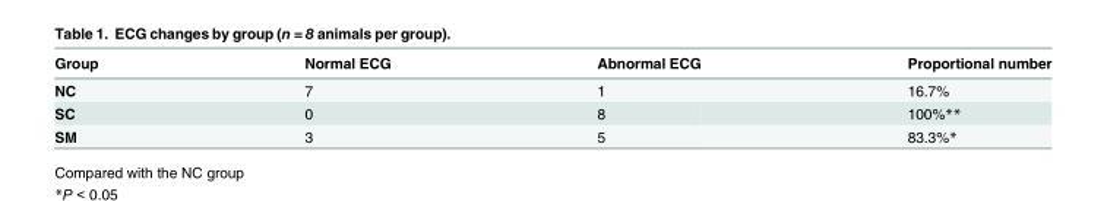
<table><thead><tr><td>Group</td><td>Normal ECG</td><td>Abnormal ECG</td><td>Proportional number</td></tr></thead><tbody><tr><td>NC</td><td>7</td><td>1</td><td>16.7%</td></tr><tr><td>SC</td><td>0</td><td>8</td><td>100%**</td></tr><tr><td>SM</td><td>3</td><td>5</td><td>83.3%*</td></tr></tbody></table>